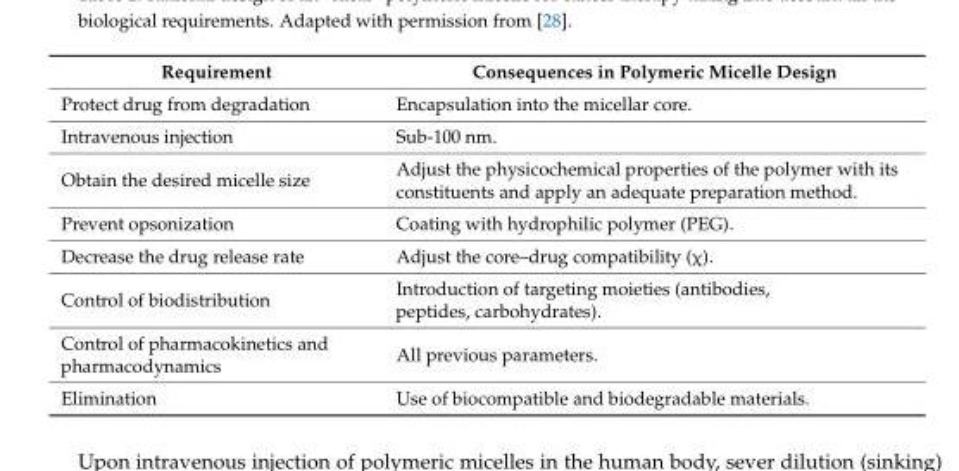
<table><thead><tr><td>Requirement</td><td>Consequences in Polymeric Micelle Design</td></tr></thead><tbody><tr><td>Protect drug from degradation</td><td>Encapsulation into the micellar core.</td></tr><tr><td>Intravenous injection</td><td>Sub-100 nm.</td></tr><tr><td>Obtain the desired micelle size</td><td>Adjust the physicochemical properties of the polymer with its constituents and apply an adequate preparation method.</td></tr><tr><td>Prevent opsonization</td><td>Coating with hydrophilic polymer (PEG).</td></tr><tr><td>Decrease the drug release rate</td><td>Adjust the core–drug compatibility (χ).</td></tr><tr><td>Control of biodistribution</td><td>Introduction of targeting moieties (antibodies, peptides, carbohydrates).</td></tr><tr><td>Control of pharmacokinetics and pharmacodynamics</td><td>All previous parameters.</td></tr><tr><td>Elimination</td><td>Use of biocompatible and biodegradable materials.</td></tr></tbody></table>